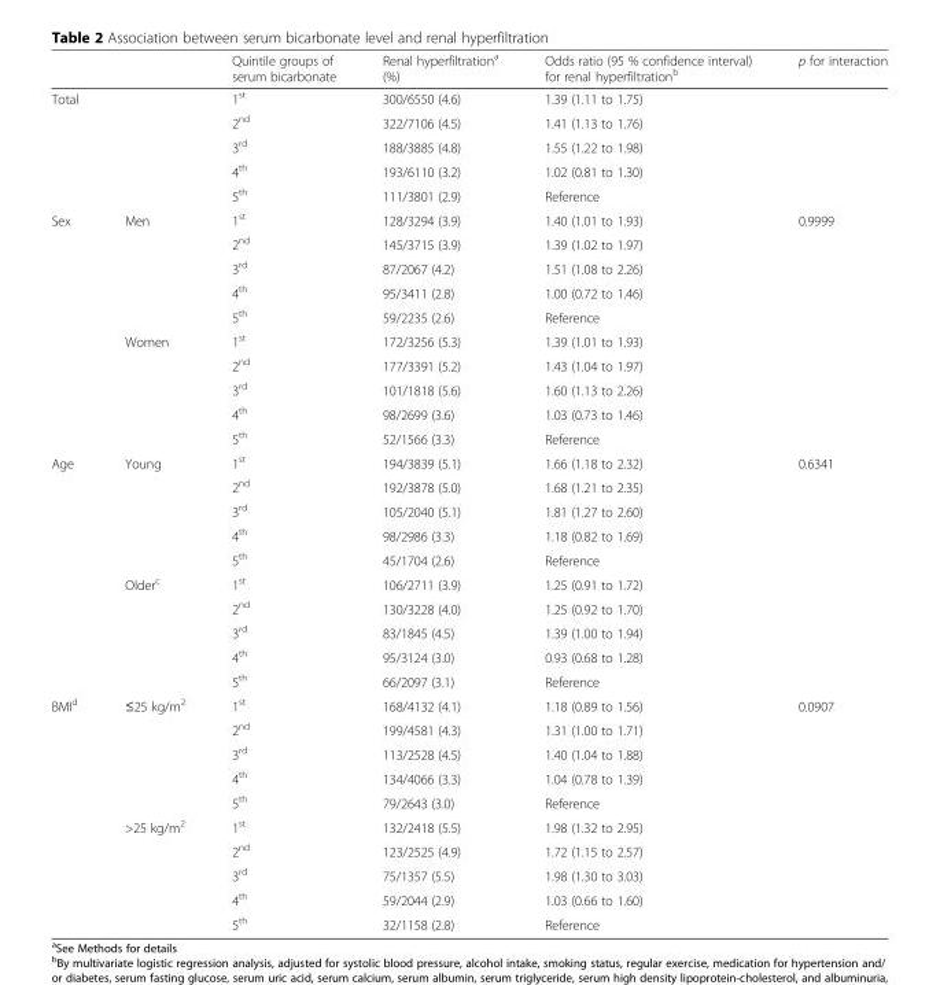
<table><thead><tr><td></td><td></td><td>Quintile groups of serum bicarbonate</td><td>Renal hyperfiltration<sup>a</sup> (%)</td><td>Odds ratio (95 % confidence interval) for renal hyperfiltration<sup>b</sup></td><td>p for interaction</td></tr></thead><tbody><tr><td rowspan="5">Total</td><td></td><td>1<sup>st</sup></td><td>300/6550 (4.6)</td><td>1.39 (1.11 to 1.75)</td><td></td></tr><tr><td></td><td>2<sup>nd</sup></td><td>322/7106 (4.5)</td><td>1.41 (1.13 to 1.76)</td><td></td></tr><tr><td></td><td>3<sup>rd</sup></td><td>188/3885 (4.8)</td><td>1.55 (1.22 to 1.98)</td><td></td></tr><tr><td></td><td>4<sup>th</sup></td><td>193/6110 (3.2)</td><td>1.02 (0.81 to 1.30)</td><td></td></tr><tr><td></td><td>5<sup>th</sup></td><td>111/3801 (2.9)</td><td>Reference</td><td></td></tr><tr><td rowspan="10">Sex</td><td>Men</td><td>1<sup>st</sup></td><td>128/3294 (3.9)</td><td>1.40 (1.01 to 1.93)</td><td>0.9999</td></tr><tr><td></td><td>2<sup>nd</sup></td><td>145/3715 (3.9)</td><td>1.39 (1.02 to 1.97)</td><td></td></tr><tr><td></td><td>3<sup>rd</sup></td><td>87/2067 (4.2)</td><td>1.51 (1.08 to 2.26)</td><td></td></tr><tr><td></td><td>4<sup>th</sup></td><td>95/3411 (2.8)</td><td>1.00 (0.72 to 1.46)</td><td></td></tr><tr><td></td><td>5<sup>th</sup></td><td>59/2235 (2.6)</td><td>Reference</td><td></td></tr><tr><td>Women</td><td>1<sup>st</sup></td><td>172/3256 (5.3)</td><td>1.39 (1.01 to 1.93)</td><td></td></tr><tr><td></td><td>2<sup>nd</sup></td><td>177/3391 (5.2)</td><td>1.43 (1.04 to 1.97)</td><td></td></tr><tr><td></td><td>3<sup>rd</sup></td><td>101/1818 (5.6)</td><td>1.60 (1.13 to 2.26)</td><td></td></tr><tr><td></td><td>4<sup>th</sup></td><td>98/2699 (3.6)</td><td>1.03 (0.73 to 1.46)</td><td></td></tr><tr><td></td><td>5<sup>th</sup></td><td>52/1566 (3.3)</td><td>Reference</td><td></td></tr><tr><td rowspan="10">Age</td><td>Young</td><td>1<sup>st</sup></td><td>194/3839 (5.1)</td><td>1.66 (1.18 to 2.32)</td><td>0.6341</td></tr><tr><td></td><td>2<sup>nd</sup></td><td>192/3878 (5.0)</td><td>1.68 (1.21 to 2.35)</td><td></td></tr><tr><td></td><td>3<sup>rd</sup></td><td>105/2040 (5.1)</td><td>1.81 (1.27 to 2.60)</td><td></td></tr><tr><td></td><td>4<sup>th</sup></td><td>98/2986 (3.3)</td><td>1.18 (0.82 to 1.69)</td><td></td></tr><tr><td></td><td>5<sup>th</sup></td><td>45/1704 (2.6)</td><td>Reference</td><td></td></tr><tr><td>Older<sup>c</sup></td><td>1<sup>st</sup></td><td>106/2711 (3.9)</td><td>1.25 (0.91 to 1.72)</td><td></td></tr><tr><td></td><td>2<sup>nd</sup></td><td>130/3228 (4.0)</td><td>1.25 (0.92 to 1.70)</td><td></td></tr><tr><td></td><td>3<sup>rd</sup></td><td>83/1845 (4.5)</td><td>1.39 (1.00 to 1.94)</td><td></td></tr><tr><td></td><td>4<sup>th</sup></td><td>95/3124 (3.0)</td><td>0.93 (0.68 to 1.28)</td><td></td></tr><tr><td></td><td>5<sup>th</sup></td><td>66/2097 (3.1)</td><td>Reference</td><td></td></tr><tr><td rowspan="10">BMI<sup>d</sup></td><td>≤25 kg/m<sup>2</sup></td><td>1<sup>st</sup></td><td>168/4132 (4.1)</td><td>1.18 (0.89 to 1.56)</td><td>0.0907</td></tr><tr><td></td><td>2<sup>nd</sup></td><td>199/4581 (4.3)</td><td>1.31 (1.00 to 1.71)</td><td></td></tr><tr><td></td><td>3<sup>rd</sup></td><td>113/2528 (4.5)</td><td>1.40 (1.04 to 1.88)</td><td></td></tr><tr><td></td><td>4<sup>th</sup></td><td>134/4066 (3.3)</td><td>1.04 (0.78 to 1.39)</td><td></td></tr><tr><td></td><td>5<sup>th</sup></td><td>79/2643 (3.0)</td><td>Reference</td><td></td></tr><tr><td>&gt;25 kg/m<sup>2</sup></td><td>1<sup>st</sup></td><td>132/2418 (5.5)</td><td>1.98 (1.32 to 2.95)</td><td></td></tr><tr><td></td><td>2<sup>nd</sup></td><td>123/2525 (4.9)</td><td>1.72 (1.15 to 2.57)</td><td></td></tr><tr><td></td><td>3<sup>rd</sup></td><td>75/1357 (5.5)</td><td>1.98 (1.30 to 3.03)</td><td></td></tr><tr><td></td><td>4<sup>th</sup></td><td>59/2044 (2.9)</td><td>1.03 (0.66 to 1.60)</td><td></td></tr><tr><td></td><td>5<sup>th</sup></td><td>32/1158 (2.8)</td><td>Reference</td><td></td></tr></tbody></table>